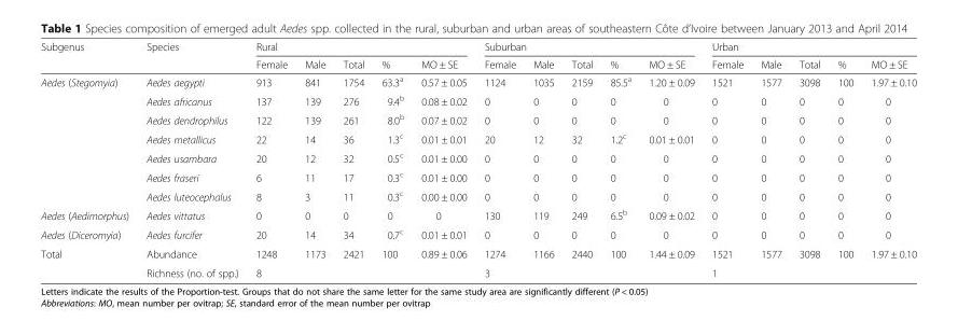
<table><thead><tr><td rowspan="2">Subgenus</td><td rowspan="2">Species</td><td colspan="5">Rural</td><td colspan="5">Suburban</td><td colspan="5">Urban</td></tr><tr><td>Female</td><td>Male</td><td>Total</td><td>%</td><td>MO ± SE</td><td>Female</td><td>Male</td><td>Total</td><td>%</td><td>MO ± SE</td><td>Female</td><td>Male</td><td>Total</td><td>%</td><td>MO ± SE</td></tr></thead><tbody><tr><td rowspan="7">Aedes (Stegomyia)</td><td>Aedes aegypti</td><td>913</td><td>841</td><td>1754</td><td>63.3<sup>a</sup></td><td>0.57 ± 0.05</td><td>1124</td><td>1035</td><td>2159</td><td>85.5<sup>a</sup></td><td>1.20 ± 0.09</td><td>1521</td><td>1577</td><td>3098</td><td>100</td><td>1.97 ± 0.10</td></tr><tr><td>Aedes africanus</td><td>137</td><td>139</td><td>276</td><td>9.4<sup>b</sup></td><td>0.08 ± 0.02</td><td>0</td><td>0</td><td>0</td><td>0</td><td>0</td><td>0</td><td>0</td><td>0</td><td>0</td><td>0</td></tr><tr><td>Aedes dendrophilus</td><td>122</td><td>139</td><td>261</td><td>8.0<sup>b</sup></td><td>0.07 ± 0.02</td><td>0</td><td>0</td><td>0</td><td>0</td><td>0</td><td>0</td><td>0</td><td>0</td><td>0</td><td>0</td></tr><tr><td>Aedes metallicus</td><td>22</td><td>14</td><td>36</td><td>1.3<sup>c</sup></td><td>0.01 ± 0.01</td><td>20</td><td>12</td><td>32</td><td>1.2<sup>c</sup></td><td>0.01 ± 0.01</td><td>0</td><td>0</td><td>0</td><td>0</td><td>0</td></tr><tr><td>Aedes usambara</td><td>20</td><td>12</td><td>32</td><td>0.5<sup>c</sup></td><td>0.01 ± 0.00</td><td>0</td><td>0</td><td>0</td><td>0</td><td>0</td><td>0</td><td>0</td><td>0</td><td>0</td><td>0</td></tr><tr><td>Aedes fraseri</td><td>6</td><td>11</td><td>17</td><td>0.3<sup>c</sup></td><td>0.01 ± 0.00</td><td>0</td><td>0</td><td>0</td><td>0</td><td>0</td><td>0</td><td>0</td><td>0</td><td>0</td><td>0</td></tr><tr><td>Aedes luteocephalus</td><td>8</td><td>3</td><td>11</td><td>0.3<sup>c</sup></td><td>0.00 ± 0.00</td><td>0</td><td>0</td><td>0</td><td>0</td><td>0</td><td>0</td><td>0</td><td>0</td><td>0</td><td>0</td></tr><tr><td>Aedes (Aedimorphus)</td><td>Aedes vittatus</td><td>0</td><td>0</td><td>0</td><td>0</td><td>0</td><td>130</td><td>119</td><td>249</td><td>6.5<sup>b</sup></td><td>0.09 ± 0.02</td><td>0</td><td>0</td><td>0</td><td>0</td><td>0</td></tr><tr><td>Aedes (Diceromyia)</td><td>Aedes furcifer</td><td>20</td><td>14</td><td>34</td><td>0.7<sup>c</sup></td><td>0.01 ± 0.01</td><td>0</td><td>0</td><td>0</td><td>0</td><td>0</td><td>0</td><td>0</td><td>0</td><td>0</td><td>0</td></tr><tr><td rowspan="2">Total</td><td>Abundance</td><td>1248</td><td>1173</td><td>2421</td><td>100</td><td>0.89 ± 0.06</td><td>1274</td><td>1166</td><td>2440</td><td>100</td><td>1.44 ± 0.09</td><td>1521</td><td>1577</td><td>3098</td><td>100</td><td>1.97 ± 0.10</td></tr><tr><td>Richness (no. of spp.)</td><td colspan="5">8</td><td colspan="5">3</td><td colspan="5">1</td></tr></tbody></table>